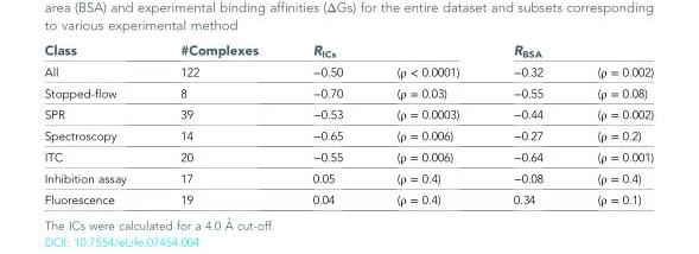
<table><thead><tr><td rowspan="2">Class All</td><td rowspan="2">#Complexes 122</td><td colspan="2">R<sub>ICs</sub></td><td colspan="2">R<sub>BSA</sub></td></tr><tr><td>−0.50</td><td>(ρ &lt; 0.0001)</td><td>−0.32</td><td>(ρ = 0.002)</td></tr></thead><tbody><tr><td>Stopped-flow</td><td>8</td><td>−0.70</td><td>(ρ = 0.03)</td><td>−0.55</td><td>(ρ = 0.08)</td></tr><tr><td>SPR</td><td>39</td><td>−0.53</td><td>(ρ = 0.0003)</td><td>−0.44</td><td>(ρ = 0.002)</td></tr><tr><td>Spectroscopy</td><td>14</td><td>−0.65</td><td>(ρ = 0.006)</td><td>−0.27</td><td>(ρ = 0.2)</td></tr><tr><td>ITC</td><td>20</td><td>−0.55</td><td>(ρ = 0.006)</td><td>−0.64</td><td>(ρ = 0.001)</td></tr><tr><td>Inhibition assay</td><td>17</td><td>0.05</td><td>(ρ = 0.4)</td><td>−0.08</td><td>(ρ = 0.4)</td></tr><tr><td>Fluorescence</td><td>19</td><td>0.04</td><td>(ρ = 0.4)</td><td>0.34</td><td>(ρ = 0.1)</td></tr></tbody></table>